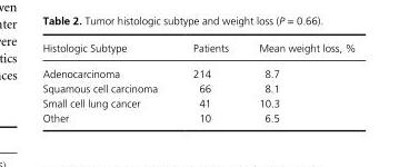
<table><thead><tr><td>Histologic Subtype</td><td>Patients</td><td>Mean weight loss, %</td></tr></thead><tbody><tr><td>Adenocarcinoma</td><td>214</td><td>8.7</td></tr><tr><td>Squamous cell carcinoma</td><td>66</td><td>8.1</td></tr><tr><td>Small cell lung cancer</td><td>41</td><td>10.3</td></tr><tr><td>Other</td><td>10</td><td>6.5</td></tr></tbody></table>